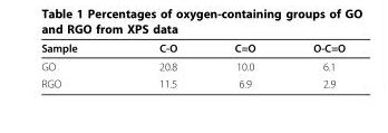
<table><thead><tr><td>Sample</td><td>C-O</td><td>C=O</td><td>O-C=O</td></tr></thead><tbody><tr><td>GO</td><td>20.8</td><td>10.0</td><td>6.1</td></tr><tr><td>RGO</td><td>11.5</td><td>6.9</td><td>2.9</td></tr></tbody></table>